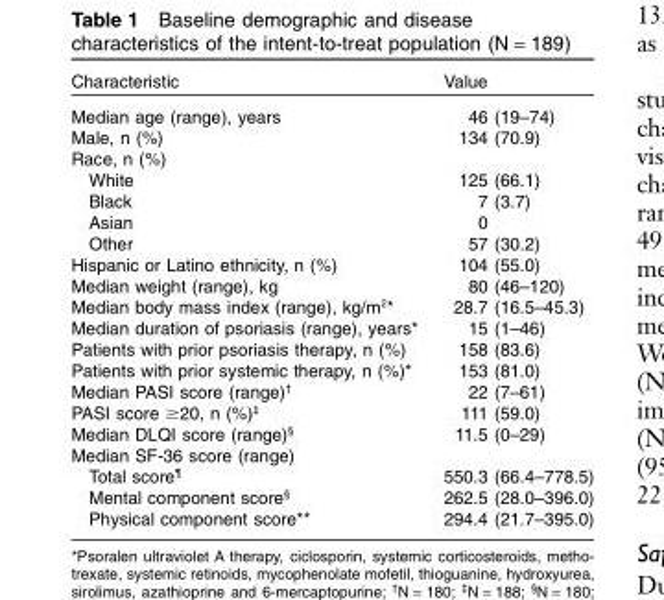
<table><thead><tr><td>Characteristic</td><td>Value</td></tr></thead><tbody><tr><td>Median age (range), years</td><td>46 (19–74)</td></tr><tr><td>Male, n (%)</td><td>134 (70.9)</td></tr><tr><td colspan="2">Race, n (%)</td></tr><tr><td>White</td><td>125 (66.1)</td></tr><tr><td>Black</td><td>7 (3.7)</td></tr><tr><td>Asian</td><td>0</td></tr><tr><td>Other</td><td>57 (30.2)</td></tr><tr><td>Hispanic or Latino ethnicity, n (%)</td><td>104 (55.0)</td></tr><tr><td>Median weight (range), kg</td><td>80 (46–120)</td></tr><tr><td>Median body mass index (range), kg/m<sup>2</sup>*</td><td>28.7 (16.5–45.3)</td></tr><tr><td>Median duration of psoriasis (range), years*</td><td>15 (1–46)</td></tr><tr><td>Patients with prior psoriasis therapy, n (%)</td><td>158 (83.6)</td></tr><tr><td>Patients with prior systemic therapy, n (%)*</td><td>153 (81.0)</td></tr><tr><td>Median PASI score (range)†</td><td>22 (7–61)</td></tr><tr><td>PASI score ≥20, n (%)‡</td><td>111 (59.0)</td></tr><tr><td>Median DLQI score (range)§</td><td>11.5 (0–29)</td></tr><tr><td colspan="2">Median SF-36 score (range)</td></tr><tr><td>Total score¶</td><td>550.3 (66.4–778.5)</td></tr><tr><td>Mental component score§</td><td>262.5 (28.0–396.0)</td></tr><tr><td>Physical component score**</td><td>294.4 (21.7–395.0)</td></tr></tbody></table>